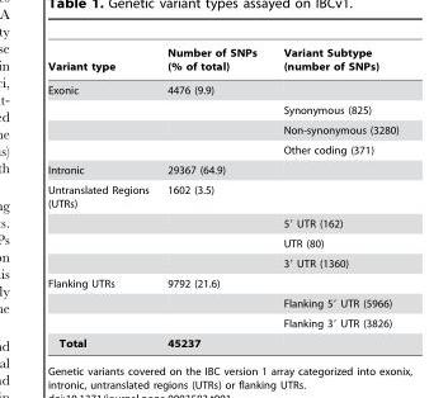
<table><thead><tr><td>Variant type</td><td>Number of SNPs (% of total)</td><td>Variant Subtype (number of SNPs)</td></tr></thead><tbody><tr><td rowspan="4">Exonic</td><td>4476 (9.9)</td><td></td></tr><tr><td></td><td>Synonymous (825)</td></tr><tr><td></td><td>Non-synonymous (3280)</td></tr><tr><td></td><td>Other coding (371)</td></tr><tr><td>Intronic</td><td>29367 (64.9)</td><td></td></tr><tr><td rowspan="4">Untranslated Regions (UTRs)</td><td>1602 (3.5)</td><td></td></tr><tr><td></td><td>5′ UTR (162)</td></tr><tr><td></td><td>UTR (80)</td></tr><tr><td></td><td>3′ UTR (1360)</td></tr><tr><td rowspan="3">Flanking UTRs</td><td>9792 (21.6)</td><td></td></tr><tr><td></td><td>Flanking 5′ UTR (5966)</td></tr><tr><td></td><td>Flanking 3′ UTR (3826)</td></tr><tr><td>Total</td><td>45237</td><td></td></tr></tbody></table>